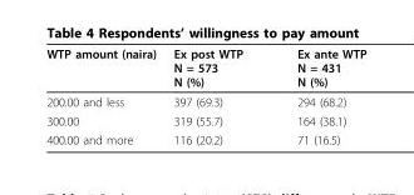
<table><thead><tr><td>WTP amount (naira)</td><td>Ex post WTP N = 573 N (%)</td><td>Ex ante WTP N = 431 N (%)</td></tr></thead><tbody><tr><td>200.00 and less</td><td>397 (69.3)</td><td>294 (68.2)</td></tr><tr><td>300.00</td><td>319 (55.7)</td><td>164 (38.1)</td></tr><tr><td>400.00 and more</td><td>116 (20.2)</td><td>71 (16.5)</td></tr></tbody></table>